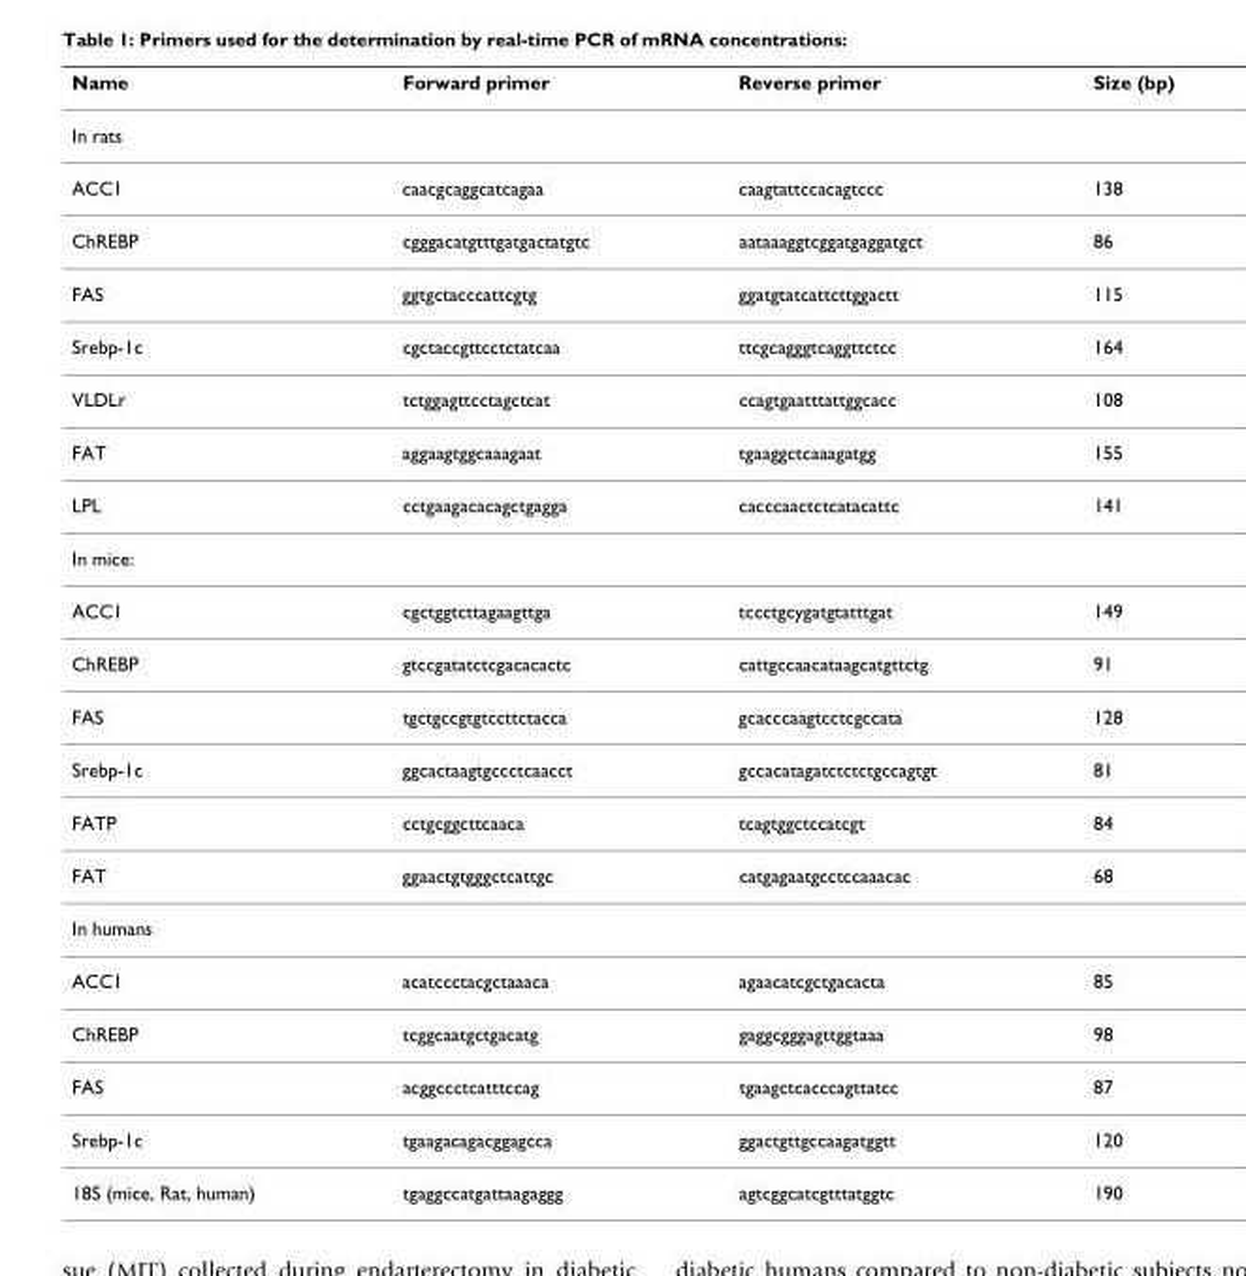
<table><thead><tr><td>Name</td><td>Forward primer</td><td>Reverse primer</td><td>Size (bp)</td></tr></thead><tbody><tr><td colspan="4">In rats</td></tr><tr><td>ACC1</td><td>caacgcaggcatcagaa</td><td>caagtattccacagtccc</td><td>138</td></tr><tr><td>ChREBP</td><td>cgggacatgtttgatgactatgtc</td><td>aataaaggtcggatgaggatgct</td><td>86</td></tr><tr><td>FAS</td><td>ggtgctacccattcgtg</td><td>ggatgtatcattcttggactt</td><td>115</td></tr><tr><td>Srebp-1c</td><td>cgctaccgttcctctatcaa</td><td>ttcgcagggtcaggttctcc</td><td>164</td></tr><tr><td>VLDLr</td><td>tctggagttcctagctcat</td><td>ccagtgaatttattggcacc</td><td>108</td></tr><tr><td>FAT</td><td>aggaagtggcaaagaat</td><td>tgaaggctcaaagatgg</td><td>155</td></tr><tr><td>LPL</td><td>cctgaagacacagctgagga</td><td>cacccaactctcatacattc</td><td>141</td></tr><tr><td colspan="4">In mice:</td></tr><tr><td>ACC1</td><td>cgctggtcttagaagttga</td><td>tccctgcygatgtatttgat</td><td>149</td></tr><tr><td>ChREBP</td><td>gtccgatatctcgacacactc</td><td>cattgccaacataagcatgttctg</td><td>91</td></tr><tr><td>FAS</td><td>tgctgccgtgtccttctacca</td><td>gcacccaagtcctcgccata</td><td>128</td></tr><tr><td>Srebp-1c</td><td>ggcactaagtgccctcaacct</td><td>gccacatagatctctctgccagtgt</td><td>81</td></tr><tr><td>FATP</td><td>cctgcggcttcaaca</td><td>tcagtggctccatcgt</td><td>84</td></tr><tr><td>FAT</td><td>ggaactgtgggctcattgc</td><td>catgagaatgcctccaaacac</td><td>68</td></tr><tr><td colspan="4">In humans</td></tr><tr><td>ACC1</td><td>acatccctacgctaaaca</td><td>agaacatcgctgacacta</td><td>85</td></tr><tr><td>ChREBP</td><td>tcggcaatgctgacatg</td><td>gaggcgggagttggtaaa</td><td>98</td></tr><tr><td>FAS</td><td>acggccctcatttccag</td><td>tgaagctcacccagttatcc</td><td>87</td></tr><tr><td>Srebp-1c</td><td>tgaagacagacggagcca</td><td>ggactgttgccaagatggtt</td><td>120</td></tr><tr><td>18S (mice, Rat, human)</td><td>tgaggccatgattaagaggg</td><td>agtcggcatcgtttatggtc</td><td>190</td></tr></tbody></table>